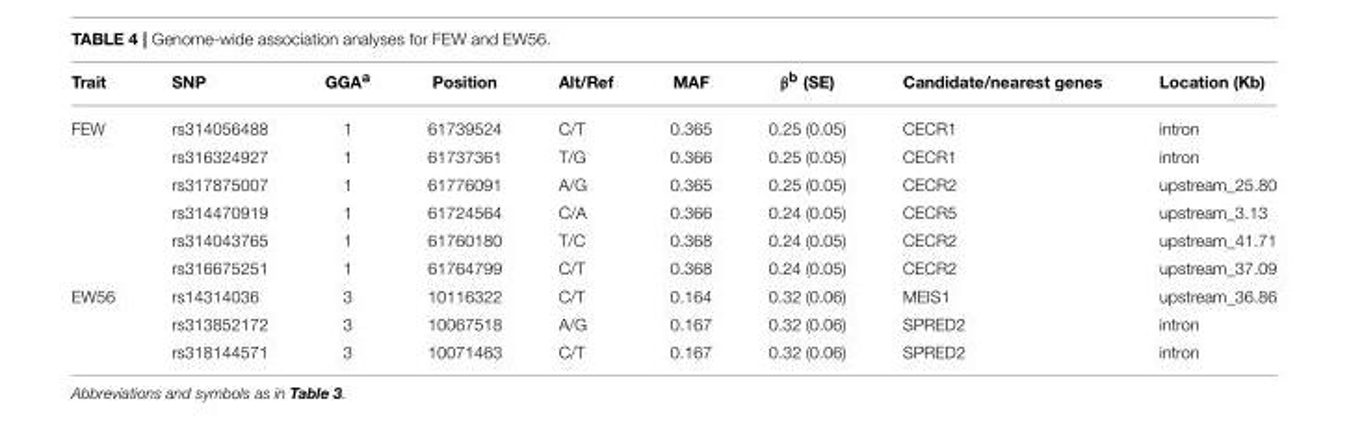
<table><thead><tr><td>Trait</td><td>SNP</td><td>GGA<sup>a</sup></td><td>Position</td><td>Alt/Ref</td><td>MAF</td><td>β<sup>b</sup> (SE)</td><td>Candidate/nearest genes</td><td>Location (Kb)</td></tr></thead><tbody><tr><td rowspan="6">FEW</td><td>rs314056488</td><td>1</td><td>61739524</td><td>C/T</td><td>0.365</td><td>0.25 (0.05)</td><td>CECR1</td><td>intron</td></tr><tr><td>rs316324927</td><td>1</td><td>61737361</td><td>T/G</td><td>0.366</td><td>0.25 (0.05)</td><td>CECR1</td><td>intron</td></tr><tr><td>rs317875007</td><td>1</td><td>61776091</td><td>A/G</td><td>0.365</td><td>0.25 (0.05)</td><td>CECR2</td><td>upstream_25.80</td></tr><tr><td>rs314470919</td><td>1</td><td>61724564</td><td>C/A</td><td>0.366</td><td>0.24 (0.05)</td><td>CECR5</td><td>upstream_3.13</td></tr><tr><td>rs314043765</td><td>1</td><td>61760180</td><td>T/C</td><td>0.368</td><td>0.24 (0.05)</td><td>CECR2</td><td>upstream_41.71</td></tr><tr><td>rs316675251</td><td>1</td><td>61764799</td><td>C/T</td><td>0.368</td><td>0.24 (0.05)</td><td>CECR2</td><td>upstream_37.09</td></tr><tr><td rowspan="3">EW56</td><td>rs14314036</td><td>3</td><td>10116322</td><td>C/T</td><td>0.164</td><td>0.32 (0.06)</td><td>MEIS1</td><td>upstream_36.86</td></tr><tr><td>rs313852172</td><td>3</td><td>10067518</td><td>A/G</td><td>0.167</td><td>0.32 (0.06)</td><td>SPRED2</td><td>intron</td></tr><tr><td>rs318144571</td><td>3</td><td>10071463</td><td>C/T</td><td>0.167</td><td>0.32 (0.06)</td><td>SPRED2</td><td>intron</td></tr></tbody></table>